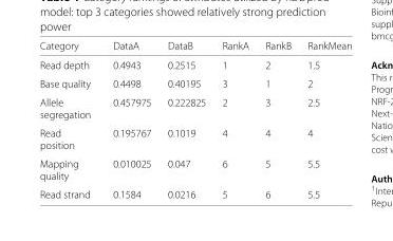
<table><thead><tr><td>Category</td><td>DataA</td><td>DataB</td><td>RankA</td><td>RankB</td><td>RankMean</td></tr></thead><tbody><tr><td>Read depth</td><td>0.4943</td><td>0.2515</td><td>1</td><td>2</td><td>1.5</td></tr><tr><td>Base quality</td><td>0.4498</td><td>0.40195</td><td>3</td><td>1</td><td>2</td></tr><tr><td>Allele segregation</td><td>0.457975</td><td>0.222825</td><td>2</td><td>3</td><td>2.5</td></tr><tr><td>Read position</td><td>0.195767</td><td>0.1019</td><td>4</td><td>4</td><td>4</td></tr><tr><td>Mapping quality</td><td>0.010025</td><td>0.047</td><td>6</td><td>5</td><td>5.5</td></tr><tr><td>Read strand</td><td>0.1584</td><td>0.0216</td><td>5</td><td>6</td><td>5.5</td></tr></tbody></table>